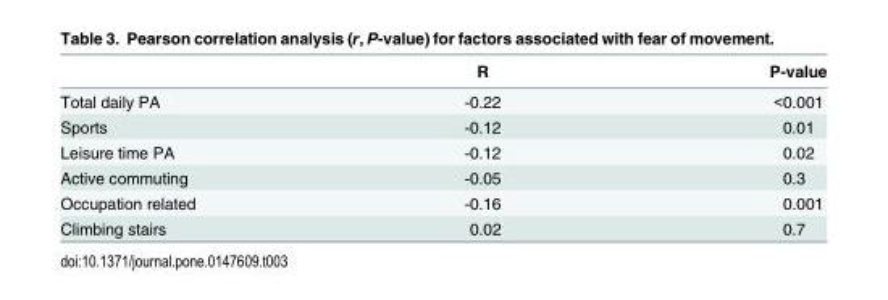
<table><thead><tr><td></td><td>R</td><td>P-value</td></tr></thead><tbody><tr><td>Total daily PA</td><td>-0.22</td><td>&lt;0.001</td></tr><tr><td>Sports</td><td>-0.12</td><td>0.01</td></tr><tr><td>Leisure time PA</td><td>-0.12</td><td>0.02</td></tr><tr><td>Active commuting</td><td>-0.05</td><td>0.3</td></tr><tr><td>Occupation related</td><td>-0.16</td><td>0.001</td></tr><tr><td>Climbing stairs</td><td>0.02</td><td>0.7</td></tr></tbody></table>